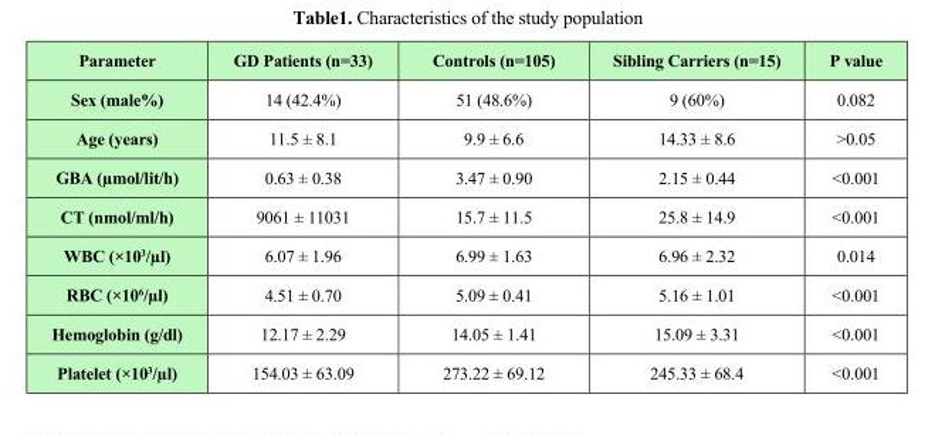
<table><thead><tr><td>Parameter</td><td>GD Patients (n=33)</td><td>Controls (n=105)</td><td>Sibling Carriers (n=15)</td><td>P value</td></tr></thead><tbody><tr><td>Sex (male%)</td><td>14 (42.4%)</td><td>51 (48.6%)</td><td>9 (60%)</td><td>0.082</td></tr><tr><td>Age (years)</td><td>11.5 ± 8.1</td><td>9.9 ± 6.6</td><td>14.33 ± 8.6</td><td>&gt;0.05</td></tr><tr><td>GBA (µmol/lit/h)</td><td>0.63 ± 0.38</td><td>3.47 ± 0.90</td><td>2.15 ± 0.44</td><td>&lt;0.001</td></tr><tr><td>CT (nmol/ml/h)</td><td>9061 ± 11031</td><td>15.7 ± 11.5</td><td>25.8 ± 14.9</td><td>&lt;0.001</td></tr><tr><td>WBC (×103/µl)</td><td>6.07 ± 1.96</td><td>6.99 ± 1.63</td><td>6.96 ± 2.32</td><td>0.014</td></tr><tr><td>RBC (×106/µl)</td><td>4.51 ± 0.70</td><td>5.09 ± 0.41</td><td>5.16 ± 1.01</td><td>&lt;0.001</td></tr><tr><td>Hemoglobin (g/dl)</td><td>12.17 ± 2.29</td><td>14.05 ± 1.41</td><td>15.09 ± 3.31</td><td>&lt;0.001</td></tr><tr><td>Platelet (×103/µl)</td><td>154.03 ± 63.09</td><td>273.22 ± 69.12</td><td>245.33 ± 68.4</td><td>&lt;0.001</td></tr></tbody></table>